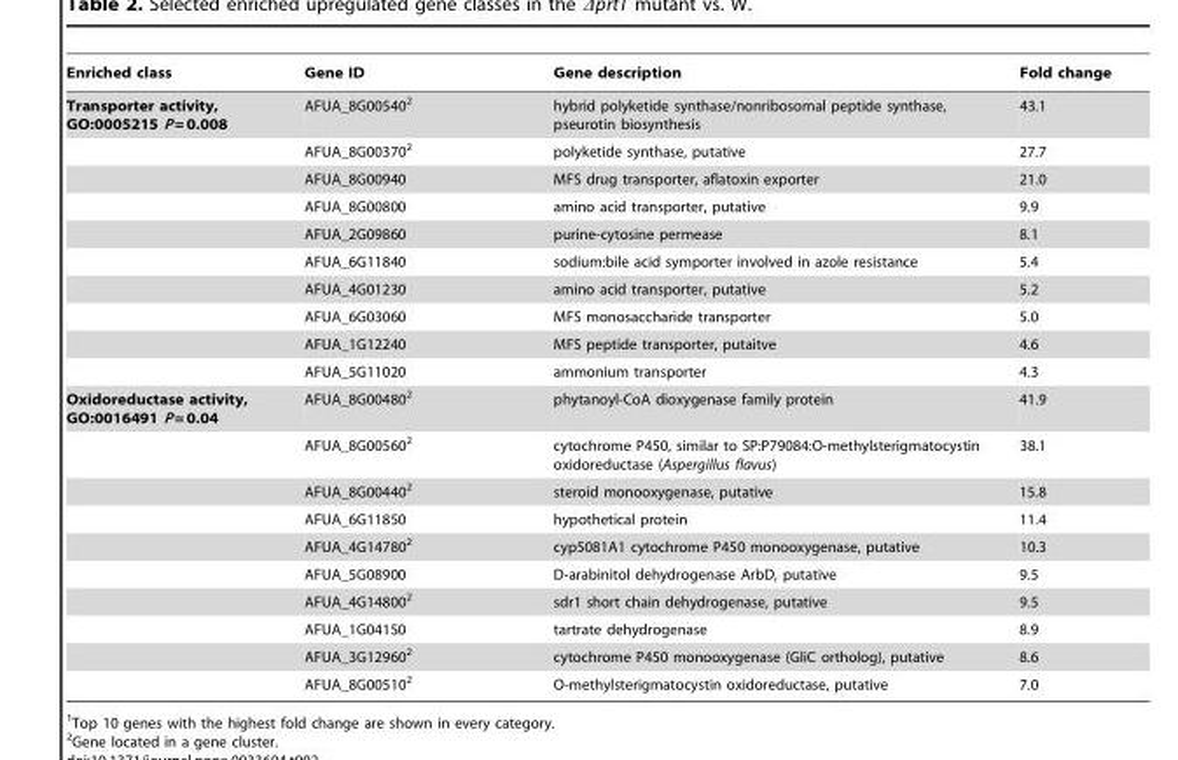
<table><thead><tr><td>Enriched class</td><td>Gene ID</td><td>Gene description</td><td>Fold change</td></tr></thead><tbody><tr><td rowspan="10">Transporter activity, GO:0005215 P = 0.008</td><td>AFUA_8G00540<sup>2</sup></td><td>hybrid polyketide synthase/nonribosomal peptide synthase, pseurotin biosynthesis</td><td>43.1</td></tr><tr><td>AFUA_8G00370<sup>2</sup></td><td>polyketide synthase, putative</td><td>27.7</td></tr><tr><td>AFUA_8G00940</td><td>MFS drug transporter, aflatoxin exporter</td><td>21.0</td></tr><tr><td>AFUA_8G00800</td><td>amino acid transporter, putative</td><td>9.9</td></tr><tr><td>AFUA_2G09860</td><td>purine-cytosine permease</td><td>8.1</td></tr><tr><td>AFUA_6G11840</td><td>sodium:bile acid symporter involved in azole resistance</td><td>5.4</td></tr><tr><td>AFUA_4G01230</td><td>amino acid transporter, putative</td><td>5.2</td></tr><tr><td>AFUA_6G03060</td><td>MFS monosaccharide transporter</td><td>5.0</td></tr><tr><td>AFUA_1G12240</td><td>MFS peptide transporter, putaitve</td><td>4.6</td></tr><tr><td>AFUA_5G11020</td><td>ammonium transporter</td><td>4.3</td></tr><tr><td rowspan="10">Oxidoreductase activity, GO:0016491 P = 0.04</td><td>AFUA_8G00480<sup>2</sup></td><td>phytanoyl-CoA dioxygenase family protein</td><td>41.9</td></tr><tr><td>AFUA_8G00560<sup>2</sup></td><td>cytochrome P450, similar to SP:P79084:O-methylsterigmatocystin oxidoreductase (Aspergillus flavus)</td><td>38.1</td></tr><tr><td>AFUA_8G00440<sup>2</sup></td><td>steroid monooxygenase, putative</td><td>15.8</td></tr><tr><td>AFUA_6G11850</td><td>hypothetical protein</td><td>11.4</td></tr><tr><td>AFUA_4G14780<sup>2</sup></td><td>cyp5081A1 cytochrome P450 monooxygenase, putative</td><td>10.3</td></tr><tr><td>AFUA_5G08900</td><td>D-arabinitol dehydrogenase ArbD, putative</td><td>9.5</td></tr><tr><td>AFUA_4G14800<sup>2</sup></td><td>sdr1 short chain dehydrogenase, putative</td><td>9.5</td></tr><tr><td>AFUA_1G04150</td><td>tartrate dehydrogenase</td><td>8.9</td></tr><tr><td>AFUA_3G12960<sup>2</sup></td><td>cytochrome P450 monooxygenase (GliC ortholog), putative</td><td>8.6</td></tr><tr><td>AFUA_8G00510<sup>2</sup></td><td>O-methylsterigmatocystin oxidoreductase, putative</td><td>7.0</td></tr></tbody></table>